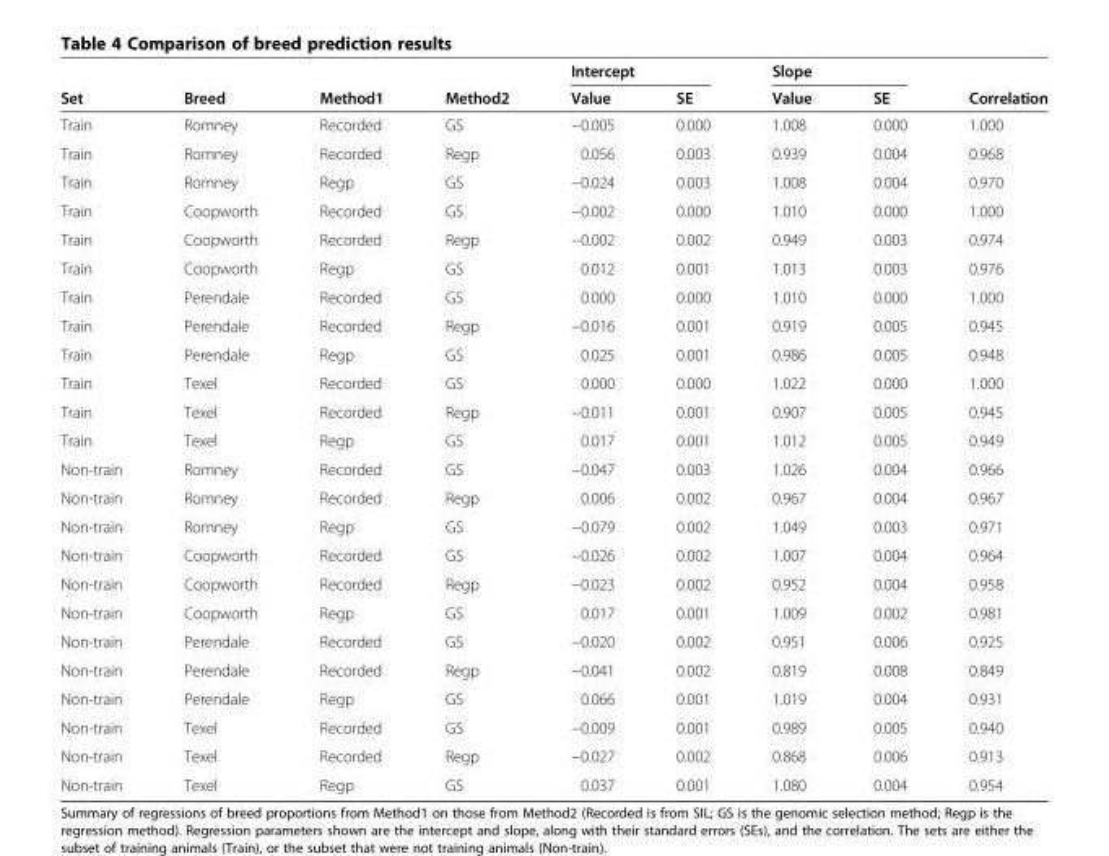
<table><thead><tr><td rowspan="2">Set</td><td rowspan="2">Breed</td><td rowspan="2">Method1</td><td rowspan="2">Method2</td><td colspan="2">Intercept</td><td colspan="2">Slope</td><td rowspan="2">Correlation</td></tr><tr><td>Value</td><td>SE</td><td>Value</td><td>SE</td></tr></thead><tbody><tr><td>Train</td><td>Romney</td><td>Recorded</td><td>GS</td><td>−0.005</td><td>0.000</td><td>1.008</td><td>0.000</td><td>1.000</td></tr><tr><td>Train</td><td>Romney</td><td>Recorded</td><td>Regp</td><td>0.056</td><td>0.003</td><td>0.939</td><td>0.004</td><td>0.968</td></tr><tr><td>Train</td><td>Romney</td><td>Regp</td><td>GS</td><td>−0.024</td><td>0.003</td><td>1.008</td><td>0.004</td><td>0.970</td></tr><tr><td>Train</td><td>Coopworth</td><td>Recorded</td><td>GS</td><td>−0.002</td><td>0.000</td><td>1.010</td><td>0.000</td><td>1.000</td></tr><tr><td>Train</td><td>Coopworth</td><td>Recorded</td><td>Regp</td><td>−0.002</td><td>0.002</td><td>0.949</td><td>0.003</td><td>0.974</td></tr><tr><td>Train</td><td>Coopworth</td><td>Regp</td><td>GS</td><td>0.012</td><td>0.001</td><td>1.013</td><td>0.003</td><td>0.976</td></tr><tr><td>Train</td><td>Perendale</td><td>Recorded</td><td>GS</td><td>0.000</td><td>0.000</td><td>1.010</td><td>0.000</td><td>1.000</td></tr><tr><td>Train</td><td>Perendale</td><td>Recorded</td><td>Regp</td><td>−0.016</td><td>0.001</td><td>0.919</td><td>0.005</td><td>0.945</td></tr><tr><td>Train</td><td>Perendale</td><td>Regp</td><td>GS</td><td>0.025</td><td>0.001</td><td>0.986</td><td>0.005</td><td>0.948</td></tr><tr><td>Train</td><td>Texel</td><td>Recorded</td><td>GS</td><td>0.000</td><td>0.000</td><td>1.022</td><td>0.000</td><td>1.000</td></tr><tr><td>Train</td><td>Texel</td><td>Recorded</td><td>Regp</td><td>−0.011</td><td>0.001</td><td>0.907</td><td>0.005</td><td>0.945</td></tr><tr><td>Train</td><td>Texel</td><td>Regp</td><td>GS</td><td>0.017</td><td>0.001</td><td>1.012</td><td>0.005</td><td>0.949</td></tr><tr><td>Non-train</td><td>Romney</td><td>Recorded</td><td>GS</td><td>−0.047</td><td>0.003</td><td>1.026</td><td>0.004</td><td>0.966</td></tr><tr><td>Non-train</td><td>Romney</td><td>Recorded</td><td>Regp</td><td>0.006</td><td>0.002</td><td>0.967</td><td>0.004</td><td>0.967</td></tr><tr><td>Non-train</td><td>Romney</td><td>Regp</td><td>GS</td><td>−0.079</td><td>0.002</td><td>1.049</td><td>0.003</td><td>0.971</td></tr><tr><td>Non-train</td><td>Coopworth</td><td>Recorded</td><td>GS</td><td>−0.026</td><td>0.002</td><td>1.007</td><td>0.004</td><td>0.964</td></tr><tr><td>Non-train</td><td>Coopworth</td><td>Recorded</td><td>Regp</td><td>−0.023</td><td>0.002</td><td>0.952</td><td>0.004</td><td>0.958</td></tr><tr><td>Non-train</td><td>Coopworth</td><td>Regp</td><td>GS</td><td>0.017</td><td>0.001</td><td>1.009</td><td>0.002</td><td>0.981</td></tr><tr><td>Non-train</td><td>Perendale</td><td>Recorded</td><td>GS</td><td>−0.020</td><td>0.002</td><td>0.951</td><td>0.006</td><td>0.925</td></tr><tr><td>Non-train</td><td>Perendale</td><td>Recorded</td><td>Regp</td><td>−0.041</td><td>0.002</td><td>0.819</td><td>0.008</td><td>0.849</td></tr><tr><td>Non-train</td><td>Perendale</td><td>Regp</td><td>GS</td><td>0.066</td><td>0.001</td><td>1.019</td><td>0.004</td><td>0.931</td></tr><tr><td>Non-train</td><td>Texel</td><td>Recorded</td><td>GS</td><td>−0.009</td><td>0.001</td><td>0.989</td><td>0.005</td><td>0.940</td></tr><tr><td>Non-train</td><td>Texel</td><td>Recorded</td><td>Regp</td><td>−0.027</td><td>0.002</td><td>0.868</td><td>0.006</td><td>0.913</td></tr><tr><td>Non-train</td><td>Texel</td><td>Regp</td><td>GS</td><td>0.037</td><td>0.001</td><td>1.080</td><td>0.004</td><td>0.954</td></tr></tbody></table>